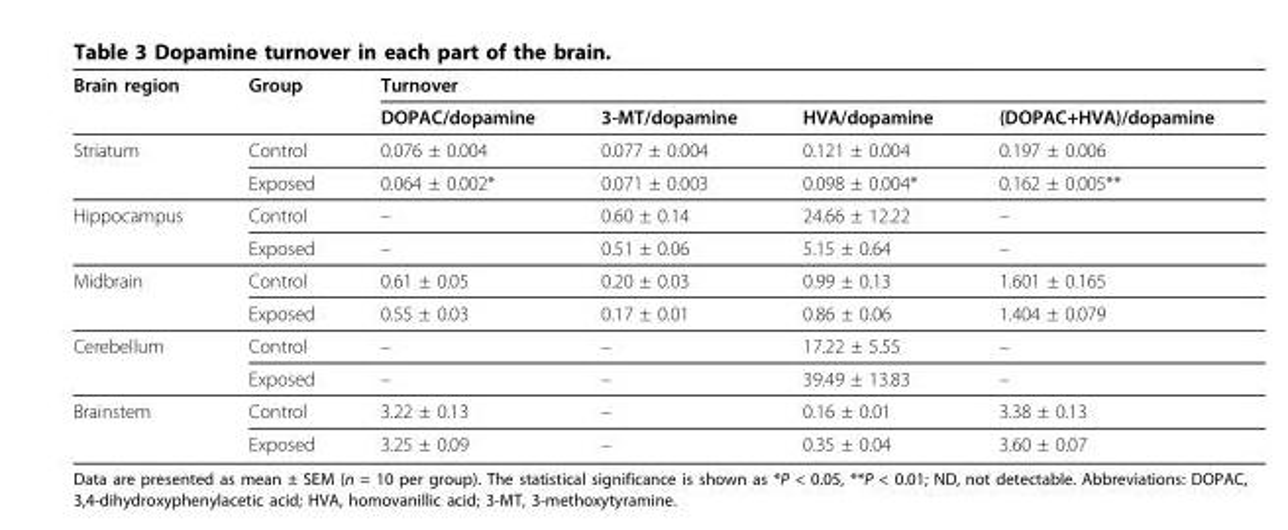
<table><thead><tr><td rowspan="2">Brain region</td><td rowspan="2">Group</td><td colspan="4">Turnover</td></tr><tr><td>DOPAC/dopamine</td><td>3-MT/dopamine</td><td>HVA/dopamine</td><td>(DOPAC+HVA)/dopamine</td></tr></thead><tbody><tr><td rowspan="2">Striatum</td><td>Control</td><td>0.076 ± 0.004</td><td>0.077 ± 0.004</td><td>0.121 ± 0.004</td><td>0.197 ± 0.006</td></tr><tr><td>Exposed</td><td>0.064 ± 0.002*</td><td>0.071 ± 0.003</td><td>0.098 ± 0.004*</td><td>0.162 ± 0.005**</td></tr><tr><td rowspan="2">Hippocampus</td><td>Control</td><td>–</td><td>0.60 ± 0.14</td><td>24.66 ± 12.22</td><td>–</td></tr><tr><td>Exposed</td><td>–</td><td>0.51 ± 0.06</td><td>5.15 ± 0.64</td><td>–</td></tr><tr><td rowspan="2">Midbrain</td><td>Control</td><td>0.61 ± 0.05</td><td>0.20 ± 0.03</td><td>0.99 ± 0.13</td><td>1.601 ± 0.165</td></tr><tr><td>Exposed</td><td>0.55 ± 0.03</td><td>0.17 ± 0.01</td><td>0.86 ± 0.06</td><td>1.404 ± 0.079</td></tr><tr><td rowspan="2">Cerebellum</td><td>Control</td><td>–</td><td>–</td><td>17.22 ± 5.55</td><td>–</td></tr><tr><td>Exposed</td><td>–</td><td>–</td><td>39.49 ± 13.83</td><td>–</td></tr><tr><td rowspan="2">Brainstem</td><td>Control</td><td>3.22 ± 0.13</td><td>–</td><td>0.16 ± 0.01</td><td>3.38 ± 0.13</td></tr><tr><td>Exposed</td><td>3.25 ± 0.09</td><td>–</td><td>0.35 ± 0.04</td><td>3.60 ± 0.07</td></tr></tbody></table>